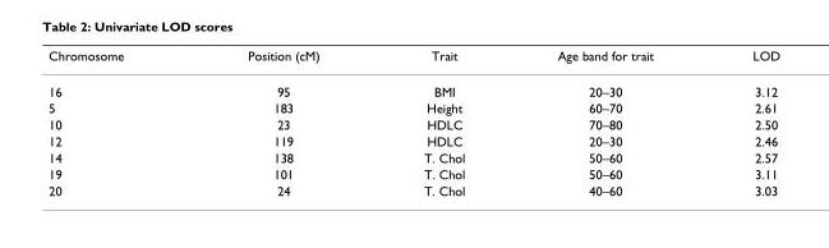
<table><thead><tr><td>Chromosome</td><td>Position (cM)</td><td>Trait</td><td>Age band for trait</td><td>LOD</td></tr></thead><tbody><tr><td>16</td><td>95</td><td>BMI</td><td>20–30</td><td>3.12</td></tr><tr><td>5</td><td>183</td><td>Height</td><td>60–70</td><td>2.61</td></tr><tr><td>10</td><td>23</td><td>HDLC</td><td>70–80</td><td>2.50</td></tr><tr><td>12</td><td>119</td><td>HDLC</td><td>20–30</td><td>2.46</td></tr><tr><td>14</td><td>138</td><td>T. Chol</td><td>50–60</td><td>2.57</td></tr><tr><td>19</td><td>101</td><td>T. Chol</td><td>50–60</td><td>3.11</td></tr><tr><td>20</td><td>24</td><td>T. Chol</td><td>40–60</td><td>3.03</td></tr></tbody></table>